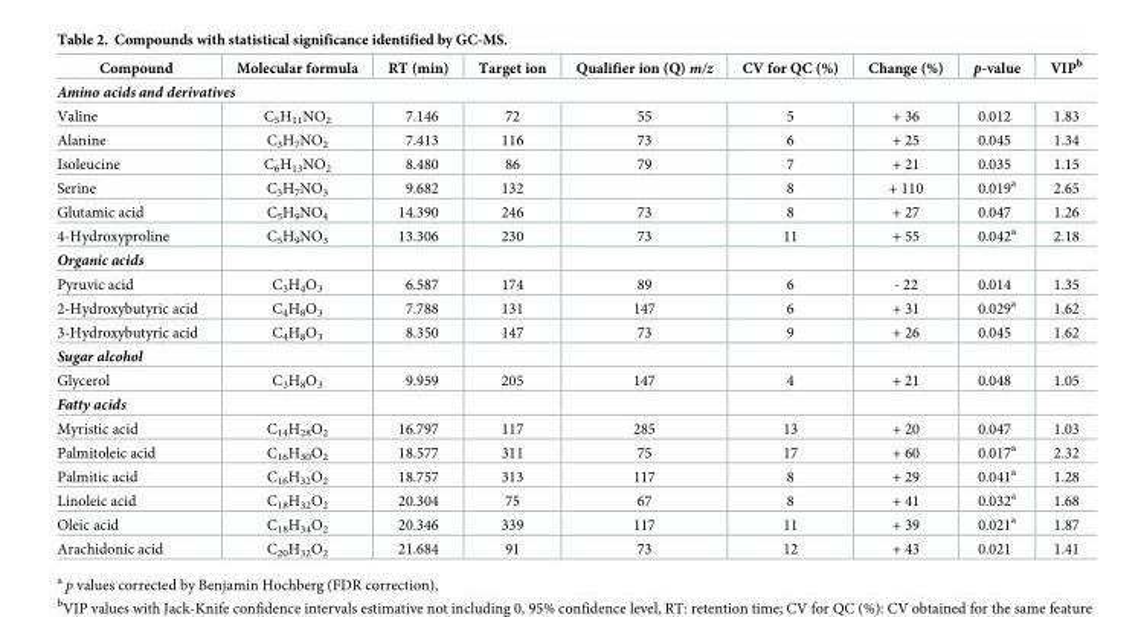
<table><thead><tr><td>Compound</td><td>Molecular formula</td><td>RT (min)</td><td>Target ion</td><td>Qualifier ion (Q) m/z</td><td>CV for QC (%)</td><td>Change (%)</td><td>p-value</td><td>VIP<sup>b</sup></td></tr></thead><tbody><tr><td colspan="9">Amino acids and derivatives</td></tr><tr><td>Valine</td><td>C<sub>5</sub>H<sub>11</sub>NO<sub>2</sub></td><td>7.146</td><td>72</td><td>55</td><td>5</td><td>+ 36</td><td>0.012</td><td>1.83</td></tr><tr><td>Alanine</td><td>C<sub>3</sub>H<sub>7</sub>NO<sub>2</sub></td><td>7.413</td><td>116</td><td>73</td><td>6</td><td>+ 25</td><td>0.045</td><td>1.34</td></tr><tr><td>Isoleucine</td><td>C<sub>6</sub>H<sub>13</sub>NO<sub>2</sub></td><td>8.480</td><td>86</td><td>79</td><td>7</td><td>+ 21</td><td>0.035</td><td>1.15</td></tr><tr><td>Serine</td><td>C<sub>3</sub>H<sub>7</sub>NO<sub>3</sub></td><td>9.682</td><td>132</td><td></td><td>8</td><td>+ 110</td><td>0.019<sup>a</sup></td><td>2.65</td></tr><tr><td>Glutamic acid</td><td>C<sub>5</sub>H<sub>9</sub>NO<sub>4</sub></td><td>14.390</td><td>246</td><td>73</td><td>8</td><td>+ 27</td><td>0.047</td><td>1.26</td></tr><tr><td>4-Hydroxyproline</td><td>C<sub>5</sub>H<sub>9</sub>NO<sub>3</sub></td><td>13.306</td><td>230</td><td>73</td><td>11</td><td>+ 55</td><td>0.042<sup>a</sup></td><td>2.18</td></tr><tr><td colspan="9">Organic acids</td></tr><tr><td>Pyruvic acid</td><td>C<sub>3</sub>H<sub>4</sub>O<sub>3</sub></td><td>6.587</td><td>174</td><td>89</td><td>6</td><td>- 22</td><td>0.014</td><td>1.35</td></tr><tr><td>2-Hydroxybutyric acid</td><td>C<sub>4</sub>H<sub>8</sub>O<sub>3</sub></td><td>7.788</td><td>131</td><td>147</td><td>6</td><td>+ 31</td><td>0.029<sup>a</sup></td><td>1.62</td></tr><tr><td>3-Hydroxybutyric acid</td><td>C<sub>4</sub>H<sub>8</sub>O<sub>3</sub></td><td>8.350</td><td>147</td><td>73</td><td>9</td><td>+ 26</td><td>0.045</td><td>1.62</td></tr><tr><td colspan="9">Sugar alcohol</td></tr><tr><td>Glycerol</td><td>C<sub>3</sub>H<sub>8</sub>O<sub>3</sub></td><td>9.959</td><td>205</td><td>147</td><td>4</td><td>+ 21</td><td>0.048</td><td>1.05</td></tr><tr><td colspan="9">Fatty acids</td></tr><tr><td>Myristic acid</td><td>C<sub>14</sub>H<sub>28</sub>O<sub>2</sub></td><td>16.797</td><td>117</td><td>285</td><td>13</td><td>+ 20</td><td>0.047</td><td>1.03</td></tr><tr><td>Palmitoleic acid</td><td>C<sub>16</sub>H<sub>30</sub>O<sub>2</sub></td><td>18.577</td><td>311</td><td>75</td><td>17</td><td>+ 60</td><td>0.017<sup>a</sup></td><td>2.32</td></tr><tr><td>Palmitic acid</td><td>C<sub>16</sub>H<sub>32</sub>O<sub>2</sub></td><td>18.757</td><td>313</td><td>117</td><td>8</td><td>+ 29</td><td>0.041<sup>a</sup></td><td>1.28</td></tr><tr><td>Linoleic acid</td><td>C<sub>18</sub>H<sub>32</sub>O<sub>2</sub></td><td>20.304</td><td>75</td><td>67</td><td>8</td><td>+ 41</td><td>0.032<sup>a</sup></td><td>1.68</td></tr><tr><td>Oleic acid</td><td>C<sub>18</sub>H<sub>34</sub>O<sub>2</sub></td><td>20.346</td><td>339</td><td>117</td><td>11</td><td>+ 39</td><td>0.021<sup>a</sup></td><td>1.87</td></tr><tr><td>Arachidonic acid</td><td>C<sub>20</sub>H<sub>32</sub>O<sub>2</sub></td><td>21.684</td><td>91</td><td>73</td><td>12</td><td>+ 43</td><td>0.021</td><td>1.41</td></tr></tbody></table>